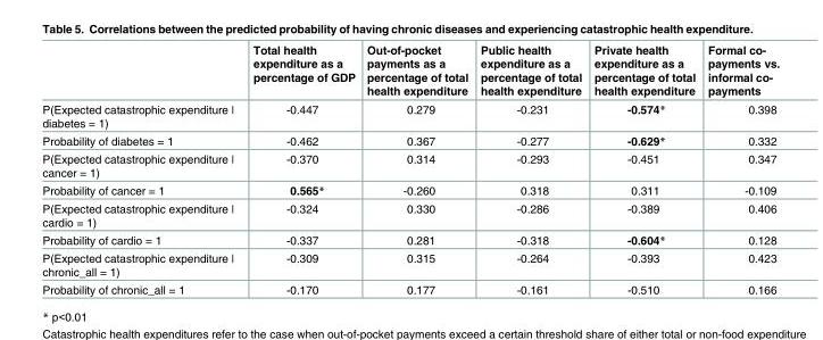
<table><thead><tr><td></td><td>Total health expenditure as a percentage of GDP</td><td>Out-of-pocket payments as a percentage of total health expenditure</td><td>Public health expenditure as a percentage of total health expenditure</td><td>Private health expenditure as a percentage of total health expenditure</td><td>Formal co- payments vs. informal co- payments</td></tr></thead><tbody><tr><td>P(Expected catastrophic expenditure ǀ diabetes = 1)</td><td>-0.447</td><td>0.279</td><td>-0.231</td><td>-0.574*</td><td>0.398</td></tr><tr><td>Probability of diabetes = 1</td><td>-0.462</td><td>0.367</td><td>-0.277</td><td>-0.629*</td><td>0.332</td></tr><tr><td>P(Expected catastrophic expenditure ǀ cancer = 1)</td><td>-0.370</td><td>0.314</td><td>-0.293</td><td>-0.451</td><td>0.347</td></tr><tr><td>Probability of cancer = 1</td><td>0.565*</td><td>-0.260</td><td>0.318</td><td>0.311</td><td>-0.109</td></tr><tr><td>P(Expected catastrophic expenditure ǀ cardio = 1)</td><td>-0.324</td><td>0.330</td><td>-0.286</td><td>-0.389</td><td>0.406</td></tr><tr><td>Probability of cardio = 1</td><td>-0.337</td><td>0.281</td><td>-0.318</td><td>-0.604*</td><td>0.128</td></tr><tr><td>P(Expected catastrophic expenditure ǀ chronic_all = 1)</td><td>-0.309</td><td>0.315</td><td>-0.264</td><td>-0.393</td><td>0.423</td></tr><tr><td>Probability of chronic_all = 1</td><td>-0.170</td><td>0.177</td><td>-0.161</td><td>-0.510</td><td>0.166</td></tr></tbody></table>